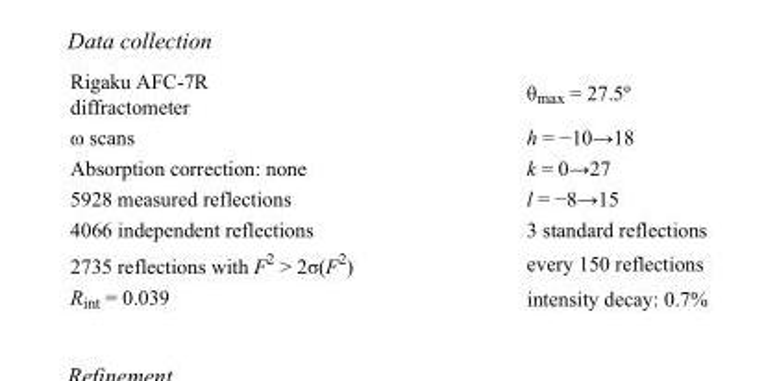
<table><tbody><tr><td>Rigaku AFC-7R diffractometer</td><td>θ<sub>max</sub> = 27.5º</td></tr><tr><td>ω scans</td><td>h = −10→18</td></tr><tr><td>Absorption correction: none</td><td>k = 0→27</td></tr><tr><td>5928 measured reflections</td><td>l = −8→15</td></tr><tr><td>4066 independent reflections</td><td>3 standard reflections</td></tr><tr><td>2735 reflections with F<sup>2</sup> &gt; 2σ(F<sup>2</sup>)</td><td>every 150 reflections</td></tr><tr><td>R<sub>int</sub> = 0.039</td><td>intensity decay: 0.7%</td></tr></tbody></table>